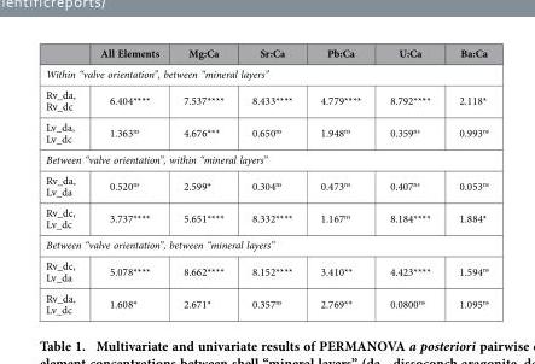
<table><thead><tr><td></td><td>All Elements</td><td>Mg:Ca</td><td>Sr:Ca</td><td>Pb:Ca</td><td>U:Ca</td><td>Ba:Ca</td></tr></thead><tbody><tr><td colspan="7">Within “valve orientation”, between “mineral layers”</td></tr><tr><td>Rv_da, Rv_dc</td><td>6.404****</td><td>7.537****</td><td>8.433****</td><td>4.779****</td><td>8.792****</td><td>2.118*</td></tr><tr><td>Lv_da, Lv_dc</td><td>1.363<sup>ns</sup></td><td>4.676***</td><td>0.650<sup>ns</sup></td><td>1.948<sup>ns</sup></td><td>0.359<sup>ns</sup></td><td>0.993<sup>ns</sup></td></tr><tr><td colspan="7">Between “valve orientation”, within “mineral layers”</td></tr><tr><td>Rv_da, Lv_da</td><td>0.520<sup>ns</sup></td><td>2.599*</td><td>0.304<sup>ns</sup></td><td>0.473<sup>ns</sup></td><td>0.407<sup>ns</sup></td><td>0.053<sup>ns</sup></td></tr><tr><td>Rv_dc, Lv_dc</td><td>3.737****</td><td>5.651****</td><td>8.332****</td><td>1.167<sup>ns</sup></td><td>8.184****</td><td>1.884*</td></tr><tr><td colspan="7">Between “valve orientation”, between “mineral layers”</td></tr><tr><td>Rv_dc, Lv_da</td><td>5.078****</td><td>8.662****</td><td>8.152****</td><td>3.410**</td><td>4.423****</td><td>1.594<sup>ns</sup></td></tr><tr><td>Rv_da, Lv_dc</td><td>1.608*</td><td>2.671*</td><td>0.357<sup>ns</sup></td><td>2.769**</td><td>0.0800<sup>ns</sup></td><td>1.095<sup>ns</sup></td></tr></tbody></table>